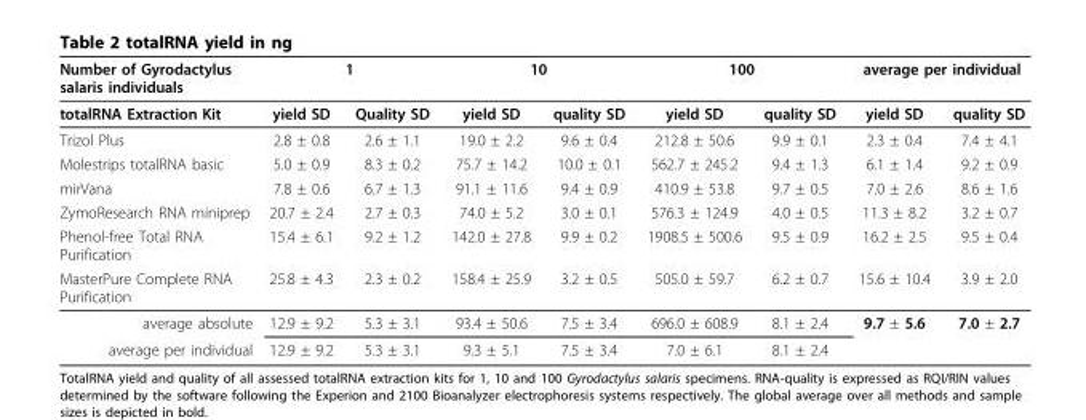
<table><thead><tr><td rowspan="2">Number of Gyrodactylus salaris individuals totalRNA Extraction Kit</td><td colspan="2">1</td><td colspan="2">10</td><td colspan="2">100</td><td colspan="2">average per individual</td></tr><tr><td>yield SD</td><td>Quality SD</td><td>yield SD</td><td>quality SD</td><td>yield SD</td><td>quality SD</td><td>yield SD</td><td>quality SD</td></tr></thead><tbody><tr><td>Trizol Plus</td><td>2.8 ± 0.8</td><td>2.6 ± 1.1</td><td>19.0 ± 2.2</td><td>9.6 ± 0.4</td><td>212.8 ± 50.6</td><td>9.9 ± 0.1</td><td>2.3 ± 0.4</td><td>7.4 ± 4.1</td></tr><tr><td>Molestrips totalRNA basic</td><td>5.0 ± 0.9</td><td>8.3 ± 0.2</td><td>75.7 ± 14.2</td><td>10.0 ± 0.1</td><td>562.7 ± 245.2</td><td>9.4 ± 1.3</td><td>6.1 ± 1.4</td><td>9.2 ± 0.9</td></tr><tr><td>mirVana</td><td>7.8 ± 0.6</td><td>6.7 ± 1.3</td><td>91.1 ± 11.6</td><td>9.4 ± 0.9</td><td>410.9 ± 53.8</td><td>9.7 ± 0.5</td><td>7.0 ± 2.6</td><td>8.6 ± 1.6</td></tr><tr><td>ZymoResearch RNA miniprep</td><td>20.7 ± 2.4</td><td>2.7 ± 0.3</td><td>74.0 ± 5.2</td><td>3.0 ± 0.1</td><td>576.3 ± 124.9</td><td>4.0 ± 0.5</td><td>11.3 ± 8.2</td><td>3.2 ± 0.7</td></tr><tr><td>Phenol-free Total RNA Purification</td><td>15.4 ± 6.1</td><td>9.2 ± 1.2</td><td>142.0 ± 27.8</td><td>9.9 ± 0.2</td><td>1908.5 ± 500.6</td><td>9.5 ± 0.9</td><td>16.2 ± 2.5</td><td>9.5 ± 0.4</td></tr><tr><td>MasterPure Complete RNA Purification</td><td>25.8 ± 4.3</td><td>2.3 ± 0.2</td><td>158.4 ± 25.9</td><td>3.2 ± 0.5</td><td>505.0 ± 59.7</td><td>6.2 ± 0.7</td><td>15.6 ± 10.4</td><td>3.9 ± 2.0</td></tr><tr><td>average absolute</td><td>12.9 ± 9.2</td><td>5.3 ± 3.1</td><td>93.4 ± 50.6</td><td>7.5 ± 3.4</td><td>696.0 ± 608.9</td><td>8.1 ± 2.4</td><td>9.7 ± 5.6</td><td>7.0 ± 2.7</td></tr><tr><td>average per individual</td><td>12.9 ± 9.2</td><td>5.3 ± 3.1</td><td>9.3 ± 5.1</td><td>7.5 ± 3.4</td><td>7.0 ± 6.1</td><td>8.1 ± 2.4</td><td></td><td></td></tr></tbody></table>